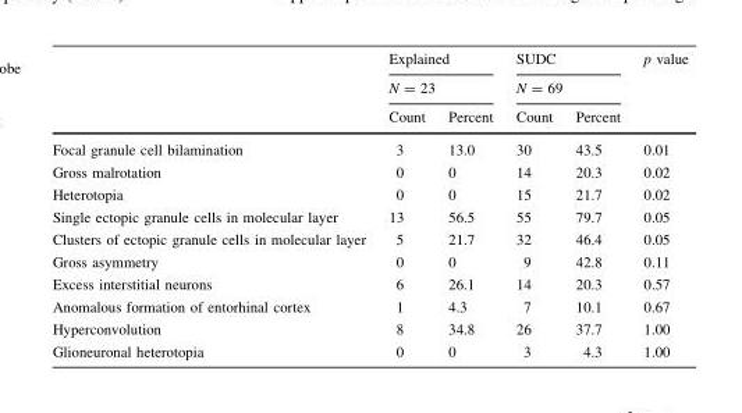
<table><thead><tr><td rowspan="3"></td><td rowspan="2" colspan="2">Explained N = 23</td><td rowspan="2" colspan="2">SUDC N = 69</td><td rowspan="3">p value</td></tr><tr></tr><tr><td>Count</td><td>Percent</td><td>Count</td><td>Percent</td></tr></thead><tbody><tr><td>Focal granule cell bilamination</td><td>3</td><td>13.0</td><td>30</td><td>43.5</td><td>0.01</td></tr><tr><td>Gross malrotation</td><td>0</td><td>0</td><td>14</td><td>20.3</td><td>0.02</td></tr><tr><td>Heterotopia</td><td>0</td><td>0</td><td>15</td><td>21.7</td><td>0.02</td></tr><tr><td>Single ectopic granule cells in molecular layer</td><td>13</td><td>56.5</td><td>55</td><td>79.7</td><td>0.05</td></tr><tr><td>Clusters of ectopic granule cells in molecular layer</td><td>5</td><td>21.7</td><td>32</td><td>46.4</td><td>0.05</td></tr><tr><td>Gross asymmetry</td><td>0</td><td>0</td><td>9</td><td>42.8</td><td>0.11</td></tr><tr><td>Excess interstitial neurons</td><td>6</td><td>26.1</td><td>14</td><td>20.3</td><td>0.57</td></tr><tr><td>Anomalous formation of entorhinal cortex</td><td>1</td><td>4.3</td><td>7</td><td>10.1</td><td>0.67</td></tr><tr><td>Hyperconvolution</td><td>8</td><td>34.8</td><td>26</td><td>37.7</td><td>1.00</td></tr><tr><td>Glioneuronal heterotopia</td><td>0</td><td>0</td><td>3</td><td>4.3</td><td>1.00</td></tr></tbody></table>